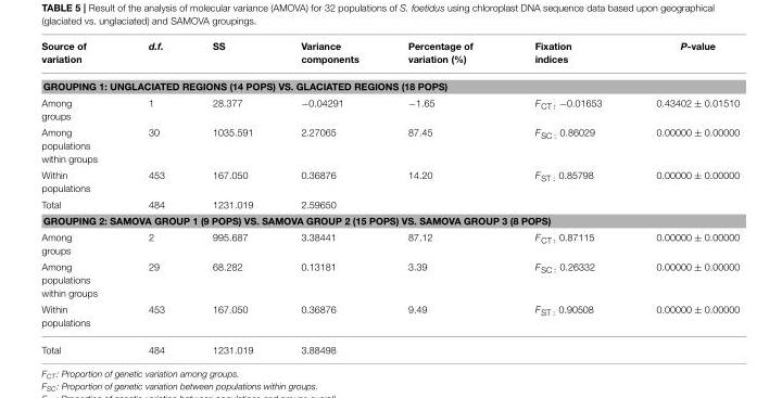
<table><thead><tr><td>Source of variation</td><td>d.f.</td><td>SS</td><td>Variance components</td><td>Percentage of variation (%)</td><td>Fixation indices</td><td>P-value</td></tr></thead><tbody><tr><td colspan="7">GROUPING 1: UNGLACIATED REGIONS (14 POPS) VS. GLACIATED REGIONS (18 POPS)</td></tr><tr><td>Among groups</td><td>1</td><td>28.377</td><td>−0.04291</td><td>−1.65</td><td>F<sub>CT :</sub> −0.01653</td><td>0.43402 ± 0.01510</td></tr><tr><td>Among populations within groups</td><td>30</td><td>1035.591</td><td>2.27065</td><td>87.45</td><td>F<sub>SC :</sub> 0.86029</td><td>0.00000 ± 0.00000</td></tr><tr><td>Within populations</td><td>453</td><td>167.050</td><td>0.36876</td><td>14.20</td><td>F<sub>ST :</sub> 0.85798</td><td>0.00000 ± 0.00000</td></tr><tr><td>Total</td><td>484</td><td>1231.019</td><td>2.59650</td><td></td><td></td><td></td></tr><tr><td colspan="7">GROUPING 2: SAMOVA GROUP 1 (9 POPS) VS. SAMOVA GROUP 2 (15 POPS) VS. SAMOVA GROUP 3 (8 POPS)</td></tr><tr><td>Among groups</td><td>2</td><td>995.687</td><td>3.38441</td><td>87.12</td><td>F<sub>CT :</sub> 0.87115</td><td>0.00000 ± 0.00000</td></tr><tr><td>Among populations within groups</td><td>29</td><td>68.282</td><td>0.13181</td><td>3.39</td><td>F<sub>SC :</sub> 0.26332</td><td>0.00000 ± 0.00000</td></tr><tr><td>Within populations</td><td>453</td><td>167.050</td><td>0.36876</td><td>9.49</td><td>F<sub>ST :</sub> 0.90508</td><td>0.00000 ± 0.00000</td></tr><tr><td>Total</td><td>484</td><td>1231.019</td><td>3.88498</td><td></td><td></td><td></td></tr></tbody></table>